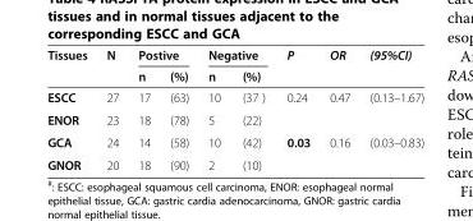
<table><thead><tr><td rowspan="2">Tissues</td><td rowspan="2">N</td><td colspan="2">Postive</td><td colspan="2">Negative</td><td rowspan="2">P</td><td rowspan="2">OR</td><td rowspan="2">(95%CI)</td></tr><tr><td>n</td><td>(%)</td><td>n</td><td>(%)</td></tr></thead><tbody><tr><td>ESCC</td><td>27</td><td>17</td><td>(63)</td><td>10</td><td>(37 )</td><td>0.24</td><td>0.47</td><td>(0.13–1.67)</td></tr><tr><td>ENOR</td><td>23</td><td>18</td><td>(78)</td><td>5</td><td>(22)</td><td></td><td></td><td></td></tr><tr><td>GCA</td><td>24</td><td>14</td><td>(58)</td><td>10</td><td>(42)</td><td>0.03</td><td>0.16</td><td>(0.03–0.83)</td></tr><tr><td>GNOR</td><td>20</td><td>18</td><td>(90)</td><td>2</td><td>(10)</td><td></td><td></td><td></td></tr></tbody></table>